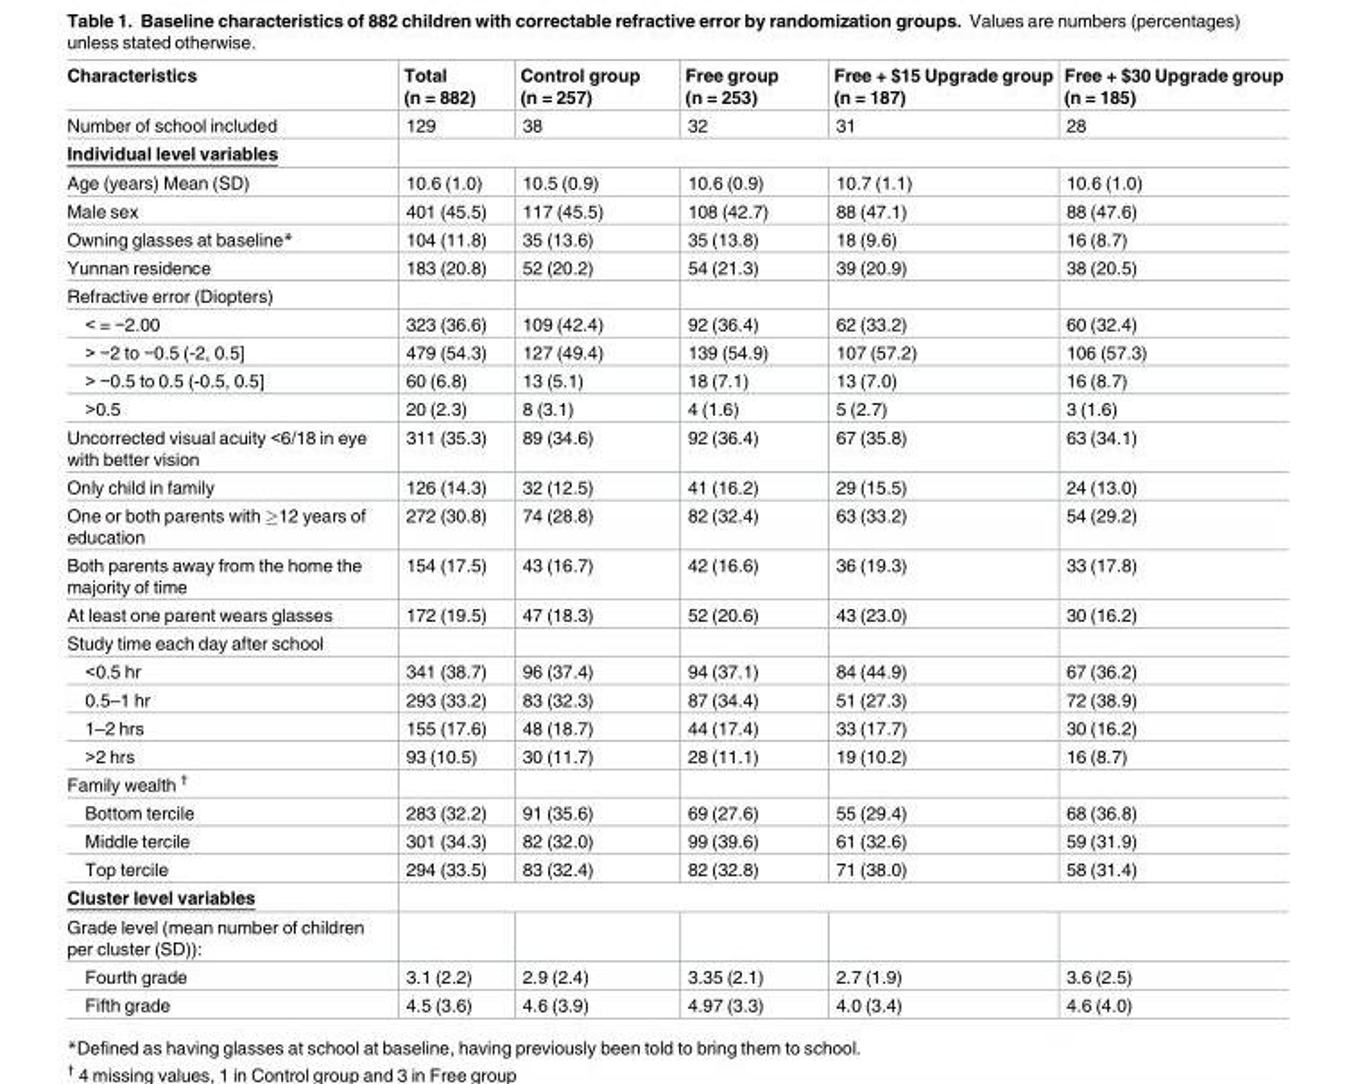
<table><thead><tr><td>Characteristics</td><td>Total (n = 882)</td><td>Control group (n = 257)</td><td>Free group (n = 253)</td><td>Free + $15 Upgrade group (n = 187)</td><td>Free + $30 Upgrade group (n = 185)</td></tr></thead><tbody><tr><td>Number of school included</td><td>129</td><td>38</td><td>32</td><td>31</td><td>28</td></tr><tr><td colspan="6">Individual level variables</td></tr><tr><td>Age (years) Mean (SD)</td><td>10.6 (1.0)</td><td>10.5 (0.9)</td><td>10.6 (0.9)</td><td>10.7 (1.1)</td><td>10.6 (1.0)</td></tr><tr><td>Male sex</td><td>401 (45.5)</td><td>117 (45.5)</td><td>108 (42.7)</td><td>88 (47.1)</td><td>88 (47.6)</td></tr><tr><td>Owning glasses at baseline*</td><td>104 (11.8)</td><td>35 (13.6)</td><td>35 (13.8)</td><td>18 (9.6)</td><td>16 (8.7)</td></tr><tr><td>Yunnan residence</td><td>183 (20.8)</td><td>52 (20.2)</td><td>54 (21.3)</td><td>39 (20.9)</td><td>38 (20.5)</td></tr><tr><td colspan="6">Refractive error (Diopters)</td></tr><tr><td>&lt; = −2.00</td><td>323 (36.6)</td><td>109 (42.4)</td><td>92 (36.4)</td><td>62 (33.2)</td><td>60 (32.4)</td></tr><tr><td>&gt; −2 to −0.5 (-2, 0.5]</td><td>479 (54.3)</td><td>127 (49.4)</td><td>139 (54.9)</td><td>107 (57.2)</td><td>106 (57.3)</td></tr><tr><td>&gt; −0.5 to 0.5 (-0.5, 0.5]</td><td>60 (6.8)</td><td>13 (5.1)</td><td>18 (7.1)</td><td>13 (7.0)</td><td>16 (8.7)</td></tr><tr><td>&gt;0.5</td><td>20 (2.3)</td><td>8 (3.1)</td><td>4 (1.6)</td><td>5 (2.7)</td><td>3 (1.6)</td></tr><tr><td>Uncorrected visual acuity &lt;6/18 in eye with better vision</td><td>311 (35.3)</td><td>89 (34.6)</td><td>92 (36.4)</td><td>67 (35.8)</td><td>63 (34.1)</td></tr><tr><td>Only child in family</td><td>126 (14.3)</td><td>32 (12.5)</td><td>41 (16.2)</td><td>29 (15.5)</td><td>24 (13.0)</td></tr><tr><td>One or both parents with ≥12 years of education</td><td>272 (30.8)</td><td>74 (28.8)</td><td>82 (32.4)</td><td>63 (33.2)</td><td>54 (29.2)</td></tr><tr><td>Both parents away from the home the majority of time</td><td>154 (17.5)</td><td>43 (16.7)</td><td>42 (16.6)</td><td>36 (19.3)</td><td>33 (17.8)</td></tr><tr><td>At least one parent wears glasses</td><td>172 (19.5)</td><td>47 (18.3)</td><td>52 (20.6)</td><td>43 (23.0)</td><td>30 (16.2)</td></tr><tr><td colspan="6">Study time each day after school</td></tr><tr><td>&lt;0.5 hr</td><td>341 (38.7)</td><td>96 (37.4)</td><td>94 (37.1)</td><td>84 (44.9)</td><td>67 (36.2)</td></tr><tr><td>0.5–1 hr</td><td>293 (33.2)</td><td>83 (32.3)</td><td>87 (34.4)</td><td>51 (27.3)</td><td>72 (38.9)</td></tr><tr><td>1–2 hrs</td><td>155 (17.6)</td><td>48 (18.7)</td><td>44 (17.4)</td><td>33 (17.7)</td><td>30 (16.2)</td></tr><tr><td>&gt;2 hrs</td><td>93 (10.5)</td><td>30 (11.7)</td><td>28 (11.1)</td><td>19 (10.2)</td><td>16 (8.7)</td></tr><tr><td colspan="6">Family wealth <sup>†</sup></td></tr><tr><td>Bottom tercile</td><td>283 (32.2)</td><td>91 (35.6)</td><td>69 (27.6)</td><td>55 (29.4)</td><td>68 (36.8)</td></tr><tr><td>Middle tercile</td><td>301 (34.3)</td><td>82 (32.0)</td><td>99 (39.6)</td><td>61 (32.6)</td><td>59 (31.9)</td></tr><tr><td>Top tercile</td><td>294 (33.5)</td><td>83 (32.4)</td><td>82 (32.8)</td><td>71 (38.0)</td><td>58 (31.4)</td></tr><tr><td colspan="6">Cluster level variables</td></tr><tr><td colspan="6">Grade level (mean number of children per cluster (SD)):</td></tr><tr><td>Fourth grade</td><td>3.1 (2.2)</td><td>2.9 (2.4)</td><td>3.35 (2.1)</td><td>2.7 (1.9)</td><td>3.6 (2.5)</td></tr><tr><td>Fifth grade</td><td>4.5 (3.6)</td><td>4.6 (3.9)</td><td>4.97 (3.3)</td><td>4.0 (3.4)</td><td>4.6 (4.0)</td></tr></tbody></table>